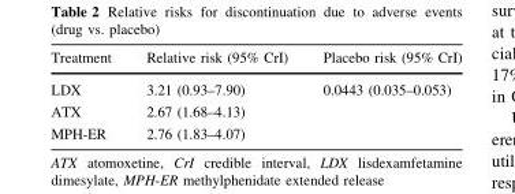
<table><thead><tr><td>Treatment</td><td>Relative risk (95% CrI)</td><td>Placebo risk (95% CrI)</td></tr></thead><tbody><tr><td>LDX</td><td>3.21 (0.93–7.90)</td><td rowspan="3">0.0443 (0.035–0.053)</td></tr><tr><td>ATX</td><td>2.67 (1.68–4.13)</td></tr><tr><td>MPH-ER</td><td>2.76 (1.83–4.07)</td></tr></tbody></table>